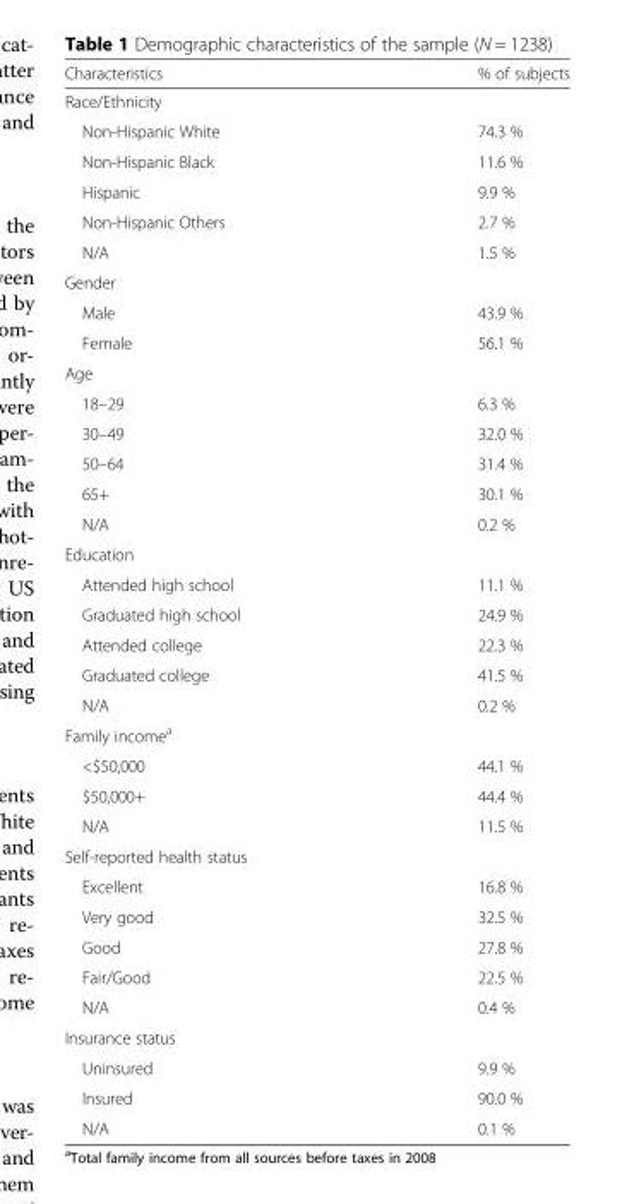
<table><thead><tr><td>Characteristics</td><td>% of subjects</td></tr></thead><tbody><tr><td colspan="2">Race/Ethnicity</td></tr><tr><td>Non-Hispanic White</td><td>74.3 %</td></tr><tr><td>Non-Hispanic Black</td><td>11.6 %</td></tr><tr><td>Hispanic</td><td>9.9 %</td></tr><tr><td>Non-Hispanic Others</td><td>2.7 %</td></tr><tr><td>N/A</td><td>1.5 %</td></tr><tr><td colspan="2">Gender</td></tr><tr><td>Male</td><td>43.9 %</td></tr><tr><td>Female</td><td>56.1 %</td></tr><tr><td colspan="2">Age</td></tr><tr><td>18–29</td><td>6.3 %</td></tr><tr><td>30–49</td><td>32.0 %</td></tr><tr><td>50–64</td><td>31.4 %</td></tr><tr><td>65+</td><td>30.1 %</td></tr><tr><td>N/A</td><td>0.2 %</td></tr><tr><td colspan="2">Education</td></tr><tr><td>Attended high school</td><td>11.1 %</td></tr><tr><td>Graduated high school</td><td>24.9 %</td></tr><tr><td>Attended college</td><td>22.3 %</td></tr><tr><td>Graduated college</td><td>41.5 %</td></tr><tr><td>N/A</td><td>0.2 %</td></tr><tr><td colspan="2">Family income<sup>a</sup></td></tr><tr><td>&lt;$50,000</td><td>44.1 %</td></tr><tr><td>$50,000+</td><td>44.4 %</td></tr><tr><td>N/A</td><td>11.5 %</td></tr><tr><td colspan="2">Self-reported health status</td></tr><tr><td>Excellent</td><td>16.8 %</td></tr><tr><td>Very good</td><td>32.5 %</td></tr><tr><td>Good</td><td>27.8 %</td></tr><tr><td>Fair/Good</td><td>22.5 %</td></tr><tr><td>N/A</td><td>0.4 %</td></tr><tr><td colspan="2">Insurance status</td></tr><tr><td>Uninsured</td><td>9.9 %</td></tr><tr><td>Insured</td><td>90.0 %</td></tr><tr><td>N/A</td><td>0.1 %</td></tr></tbody></table>